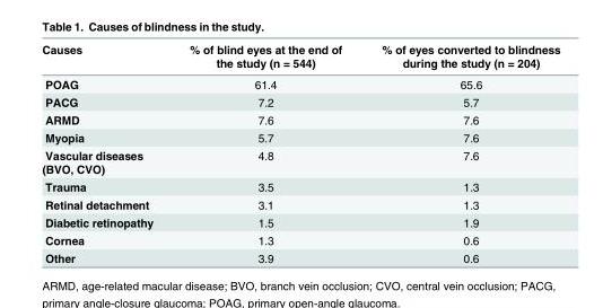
<table><thead><tr><td>Causes</td><td>% of blind eyes at the end of the study (n = 544)</td><td>% of eyes converted to blindness during the study (n = 204)</td></tr></thead><tbody><tr><td>POAG</td><td>61.4</td><td>65.6</td></tr><tr><td>PACG</td><td>7.2</td><td>5.7</td></tr><tr><td>ARMD</td><td>7.6</td><td>7.6</td></tr><tr><td>Myopia</td><td>5.7</td><td>7.6</td></tr><tr><td>Vascular diseases (BVO, CVO)</td><td>4.8</td><td>7.6</td></tr><tr><td>Trauma</td><td>3.5</td><td>1.3</td></tr><tr><td>Retinal detachment</td><td>3.1</td><td>1.3</td></tr><tr><td>Diabetic retinopathy</td><td>1.5</td><td>1.9</td></tr><tr><td>Cornea</td><td>1.3</td><td>0.6</td></tr><tr><td>Other</td><td>3.9</td><td>0.6</td></tr></tbody></table>